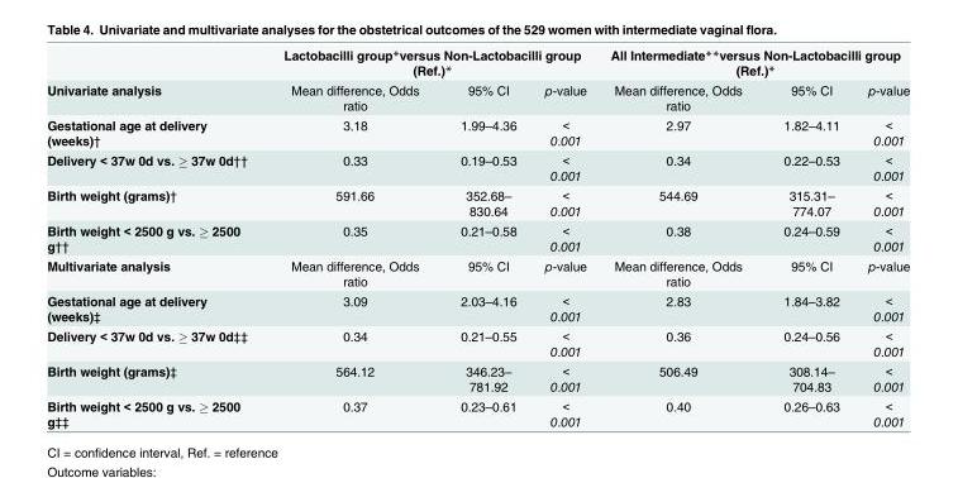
<table><thead><tr><td rowspan="2">Univariate analysis</td><td colspan="3">Lactobacilli group*versus Non-Lactobacilli group (Ref.)*</td><td colspan="3">All Intermediate**versus Non-Lactobacilli group (Ref.)*</td></tr><tr><td>Mean difference, Odds ratio</td><td>95% CI</td><td>p-value</td><td>Mean difference, Odds ratio</td><td>95% CI</td><td>p-value</td></tr></thead><tbody><tr><td>Gestational age at delivery (weeks)†</td><td>3.18</td><td>1.99–4.36</td><td>&lt; 0.001</td><td>2.97</td><td>1.82–4.11</td><td>&lt; 0.001</td></tr><tr><td>Delivery &lt; 37w 0d vs. ≥ 37w 0d††</td><td>0.33</td><td>0.19–0.53</td><td>&lt; 0.001</td><td>0.34</td><td>0.22–0.53</td><td>&lt; 0.001</td></tr><tr><td>Birth weight (grams)†</td><td>591.66</td><td>352.68– 830.64</td><td>&lt; 0.001</td><td>544.69</td><td>315.31– 774.07</td><td>&lt; 0.001</td></tr><tr><td>Birth weight &lt; 2500 g vs. ≥ 2500 g††</td><td>0.35</td><td>0.21–0.58</td><td>&lt; 0.001</td><td>0.38</td><td>0.24–0.59</td><td>&lt; 0.001</td></tr><tr><td>Multivariate analysis</td><td>Mean difference, Odds ratio</td><td>95% CI</td><td>p-value</td><td>Mean difference, Odds ratio</td><td>95% CI</td><td>p-value</td></tr><tr><td>Gestational age at delivery (weeks)‡</td><td>3.09</td><td>2.03–4.16</td><td>&lt; 0.001</td><td>2.83</td><td>1.84–3.82</td><td>&lt; 0.001</td></tr><tr><td>Delivery &lt; 37w 0d vs. ≥ 37w 0d‡‡</td><td>0.34</td><td>0.21–0.55</td><td>&lt; 0.001</td><td>0.36</td><td>0.24–0.56</td><td>&lt; 0.001</td></tr><tr><td>Birth weight (grams)‡</td><td>564.12</td><td>346.23– 781.92</td><td>&lt; 0.001</td><td>506.49</td><td>308.14– 704.83</td><td>&lt; 0.001</td></tr><tr><td>Birth weight &lt; 2500 g vs. ≥ 2500 g‡‡</td><td>0.37</td><td>0.23–0.61</td><td>&lt; 0.001</td><td>0.40</td><td>0.26–0.63</td><td>&lt; 0.001</td></tr></tbody></table>